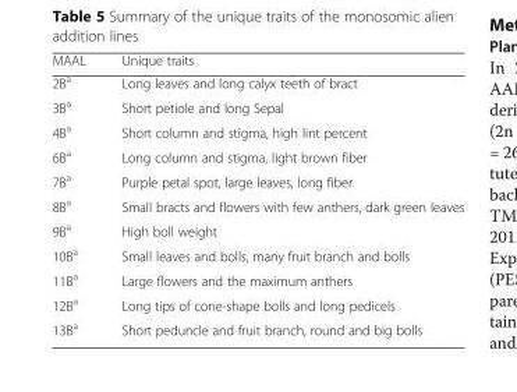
<table><thead><tr><td>MAAL</td><td>Unique traits</td></tr></thead><tbody><tr><td>2B<sup>a</sup></td><td>Long leaves and long calyx teeth of bract</td></tr><tr><td>3B<sup>a</sup></td><td>Short petiole and long Sepal</td></tr><tr><td>4B<sup>a</sup></td><td>Short column and stigma, high lint percent</td></tr><tr><td>6B<sup>a</sup></td><td>Long column and stigma, light brown fiber</td></tr><tr><td>7B<sup>a</sup></td><td>Purple petal spot, large leaves, long fiber</td></tr><tr><td>8B<sup>a</sup></td><td>Small bracts and flowers with few anthers, dark green leaves</td></tr><tr><td>9B<sup>a</sup></td><td>High boll weight</td></tr><tr><td>10B<sup>a</sup></td><td>Small leaves and bolls, many fruit branch and bolls</td></tr><tr><td>11B<sup>a</sup></td><td>Large flowers and the maximum anthers</td></tr><tr><td>12B<sup>a</sup></td><td>Long tips of cone-shape bolls and long pedicels</td></tr><tr><td>13B<sup>a</sup></td><td>Short peduncle and fruit branch, round and big bolls</td></tr></tbody></table>